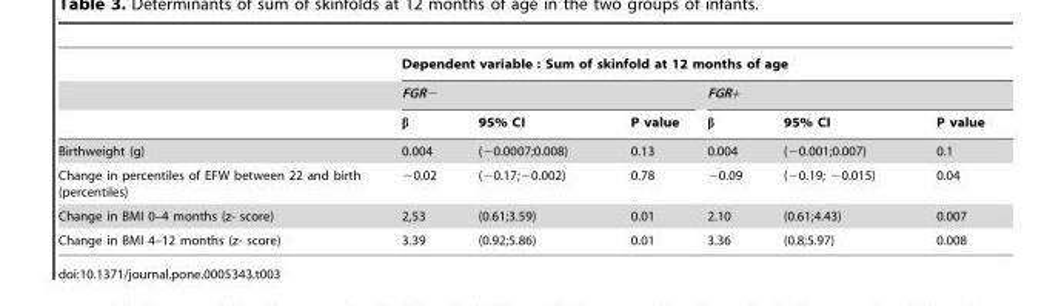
<table><thead><tr><td rowspan="3"></td><td colspan="6">Dependent variable : Sum of skinfold at 12 months of age</td></tr><tr><td colspan="3">FGR−</td><td colspan="3">FGR+</td></tr><tr><td>β</td><td>95% CI</td><td>P value</td><td>β</td><td>95% CI</td><td>P value</td></tr></thead><tbody><tr><td>Birthweight (g)</td><td>0.004</td><td>(−0.0007;0.008)</td><td>0.13</td><td>0.004</td><td>(−0.001;0.007)</td><td>0.1</td></tr><tr><td>Change in percentiles of EFW between 22 and birth (percentiles)</td><td>−0.02</td><td>(−0.17;−0.002)</td><td>0.78</td><td>−0.09</td><td>(−0.19; −0.015)</td><td>0.04</td></tr><tr><td>Change in BMI 0–4 months (z- score)</td><td>2,53</td><td>(0.61;3.59)</td><td>0.01</td><td>2.10</td><td>(0.61;4.43)</td><td>0.007</td></tr><tr><td>Change in BMI 4–12 months (z- score)</td><td>3.39</td><td>(0.92;5.86)</td><td>0.01</td><td>3.36</td><td>(0.8;5.97)</td><td>0.008</td></tr></tbody></table>